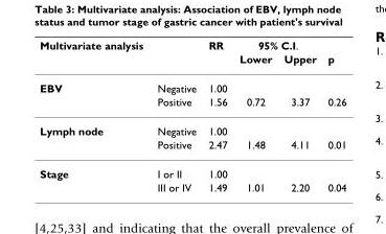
<table><thead><tr><td rowspan="2">Multivariate analysis</td><td rowspan="2"></td><td rowspan="2">RR</td><td colspan="2">95% C.I.</td><td rowspan="2">p</td></tr><tr><td>Lower</td><td>Upper</td></tr></thead><tbody><tr><td rowspan="2">EBV</td><td>Negative</td><td>1.00</td><td></td><td></td><td></td></tr><tr><td>Positive</td><td>1.56</td><td>0.72</td><td>3.37</td><td>0.26</td></tr><tr><td rowspan="2">Lymph node</td><td>Negative</td><td>1.00</td><td></td><td></td><td></td></tr><tr><td>Positive</td><td>2.47</td><td>1.48</td><td>4.11</td><td>0.01</td></tr><tr><td rowspan="2">Stage</td><td>I or II</td><td>1.00</td><td></td><td></td><td></td></tr><tr><td>III or IV</td><td>1.49</td><td>1.01</td><td>2.20</td><td>0.04</td></tr></tbody></table>